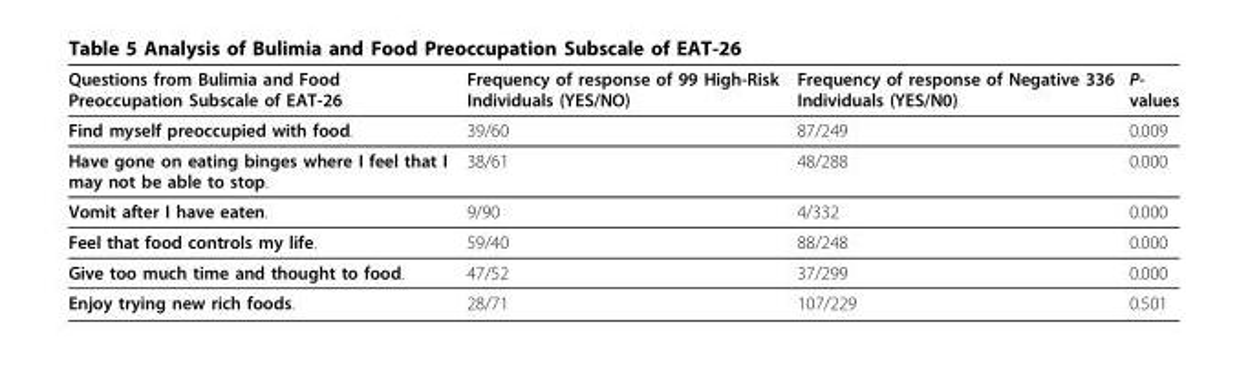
<table><thead><tr><td>Questions from Bulimia and Food Preoccupation Subscale of EAT-26</td><td>Frequency of response of 99 High-Risk Individuals (YES/NO)</td><td>Frequency of response of Negative 336 Individuals (YES/N0)</td><td>P- values</td></tr></thead><tbody><tr><td>Find myself preoccupied with food.</td><td>39/60</td><td>87/249</td><td>0.009</td></tr><tr><td>Have gone on eating binges where I feel that I may not be able to stop.</td><td>38/61</td><td>48/288</td><td>0.000</td></tr><tr><td>Vomit after I have eaten.</td><td>9/90</td><td>4/332</td><td>0.000</td></tr><tr><td>Feel that food controls my life.</td><td>59/40</td><td>88/248</td><td>0.000</td></tr><tr><td>Give too much time and thought to food.</td><td>47/52</td><td>37/299</td><td>0.000</td></tr><tr><td>Enjoy trying new rich foods.</td><td>28/71</td><td>107/229</td><td>0.501</td></tr></tbody></table>